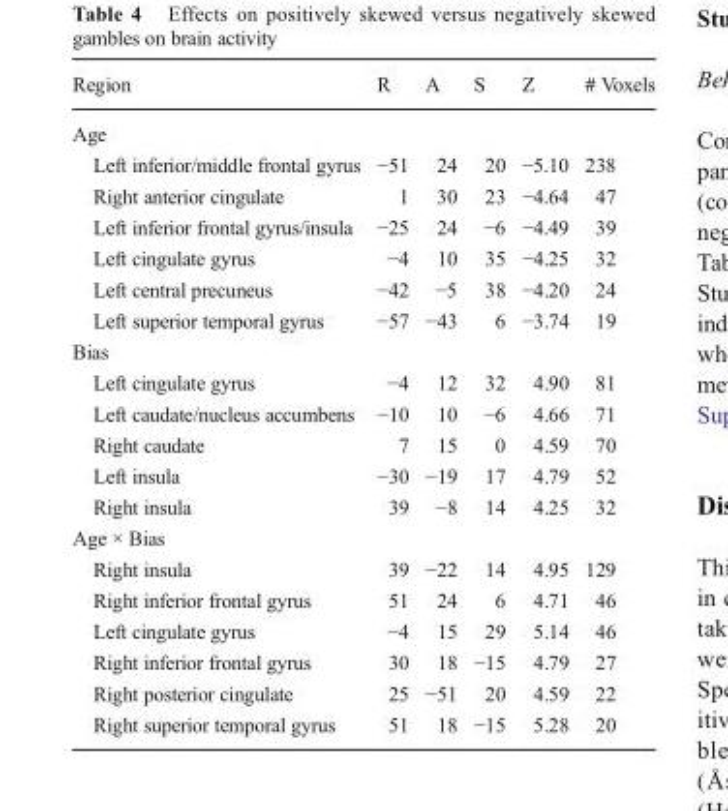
<table><thead><tr><td>Region</td><td>R</td><td>A</td><td>S</td><td>Z</td><td># Voxels</td></tr></thead><tbody><tr><td colspan="6">Age</td></tr><tr><td>Left inferior/middle frontal gyrus</td><td>−51</td><td>24</td><td>20</td><td>−5.10</td><td>238</td></tr><tr><td>Right anterior cingulate</td><td>1</td><td>30</td><td>23</td><td>−4.64</td><td>47</td></tr><tr><td>Left inferior frontal gyrus/insula</td><td>−25</td><td>24</td><td>−6</td><td>−4.49</td><td>39</td></tr><tr><td>Left cingulate gyrus</td><td>−4</td><td>10</td><td>35</td><td>−4.25</td><td>32</td></tr><tr><td>Left central precuneus</td><td>−42</td><td>−5</td><td>38</td><td>−4.20</td><td>24</td></tr><tr><td>Left superior temporal gyrus</td><td>−57</td><td>−43</td><td>6</td><td>−3.74</td><td>19</td></tr><tr><td colspan="6">Bias</td></tr><tr><td>Left cingulate gyrus</td><td>−4</td><td>12</td><td>32</td><td>4.90</td><td>81</td></tr><tr><td>Left caudate/nucleus accumbens</td><td>−10</td><td>10</td><td>−6</td><td>4.66</td><td>71</td></tr><tr><td>Right caudate</td><td>7</td><td>15</td><td>0</td><td>4.59</td><td>70</td></tr><tr><td>Left insula</td><td>−30</td><td>−19</td><td>17</td><td>4.79</td><td>52</td></tr><tr><td>Right insula</td><td>39</td><td>−8</td><td>14</td><td>4.25</td><td>32</td></tr><tr><td colspan="6">Age × Bias</td></tr><tr><td>Right insula</td><td>39</td><td>−22</td><td>14</td><td>4.95</td><td>129</td></tr><tr><td>Right inferior frontal gyrus</td><td>51</td><td>24</td><td>6</td><td>4.71</td><td>46</td></tr><tr><td>Left cingulate gyrus</td><td>−4</td><td>15</td><td>29</td><td>5.14</td><td>46</td></tr><tr><td>Right inferior frontal gyrus</td><td>30</td><td>18</td><td>−15</td><td>4.79</td><td>27</td></tr><tr><td>Right posterior cingulate</td><td>25</td><td>−51</td><td>20</td><td>4.59</td><td>22</td></tr><tr><td>Right superior temporal gyrus</td><td>51</td><td>18</td><td>−15</td><td>5.28</td><td>20</td></tr></tbody></table>